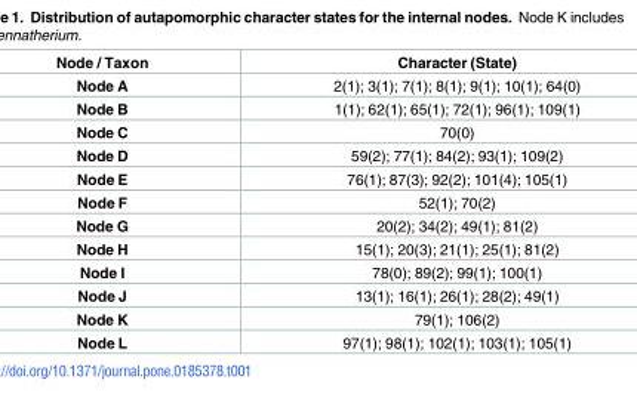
<table><thead><tr><td>Node / Taxon</td><td>Character (State)</td></tr></thead><tbody><tr><td>Node A</td><td>2(1); 3(1); 7(1); 8(1); 9(1); 10(1); 64(0)</td></tr><tr><td>Node B</td><td>1(1); 62(1); 65(1); 72(1); 96(1); 109(1)</td></tr><tr><td>Node C</td><td>70(0)</td></tr><tr><td>Node D</td><td>59(2); 77(1); 84(2); 93(1); 109(2)</td></tr><tr><td>Node E</td><td>76(1); 87(3); 92(2); 101(4); 105(1)</td></tr><tr><td>Node F</td><td>52(1); 70(2)</td></tr><tr><td>Node G</td><td>20(2); 34(2); 49(1); 81(2)</td></tr><tr><td>Node H</td><td>15(1); 20(3); 21(1); 25(1); 81(2)</td></tr><tr><td>Node I</td><td>78(0); 89(2); 99(1); 100(1)</td></tr><tr><td>Node J</td><td>13(1); 16(1); 26(1); 28(2); 49(1)</td></tr><tr><td>Node K</td><td>79(1); 106(2)</td></tr><tr><td>Node L</td><td>97(1); 98(1); 102(1); 103(1); 105(1)</td></tr></tbody></table>